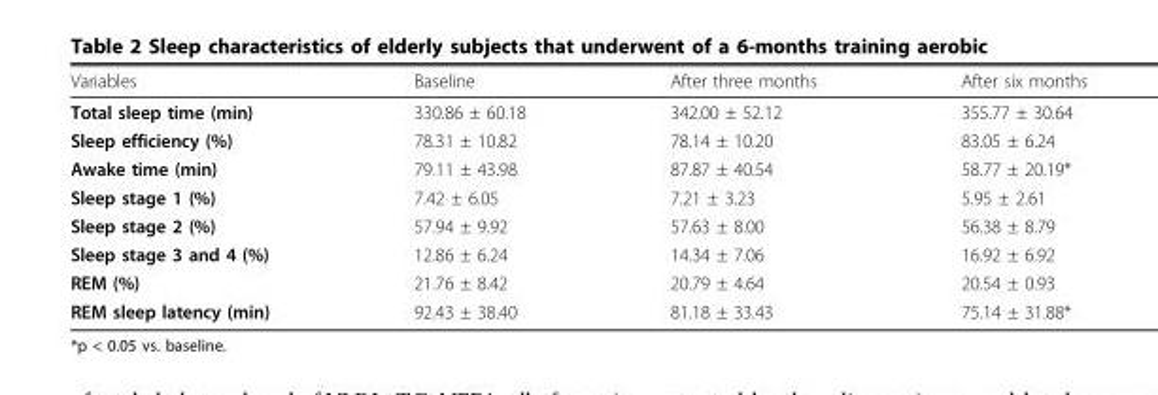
<table><tbody><tr><td>Variables</td><td>Baseline</td><td>After three months</td><td>After six months</td></tr><tr><td>Total sleep time (min)</td><td>330.86 ± 60.18</td><td>342.00 ± 52.12</td><td>355.77 ± 30.64</td></tr><tr><td>Sleep efficiency (%)</td><td>78.31 ± 10.82</td><td>78.14 ± 10.20</td><td>83.05 ± 6.24</td></tr><tr><td>Awake time (min)</td><td>79.11 ± 43.98</td><td>87.87 ± 40.54</td><td>58.77 ± 20.19*</td></tr><tr><td>Sleep stage 1 (%)</td><td>7.42 ± 6.05</td><td>7.21 ± 3.23</td><td>5.95 ± 2.61</td></tr><tr><td>Sleep stage 2 (%)</td><td>57.94 ± 9.92</td><td>57.63 ± 8.00</td><td>56.38 ± 8.79</td></tr><tr><td>Sleep stage 3 and 4 (%)</td><td>12.86 ± 6.24</td><td>14.34 ± 7.06</td><td>16.92 ± 6.92</td></tr><tr><td>REM (%)</td><td>21.76 ± 8.42</td><td>20.79 ± 4.64</td><td>20.54 ± 0.93</td></tr><tr><td>REM sleep latency (min)</td><td>92.43 ± 38.40</td><td>81.18 ± 33.43</td><td>75.14 ± 31.88*</td></tr></tbody></table>